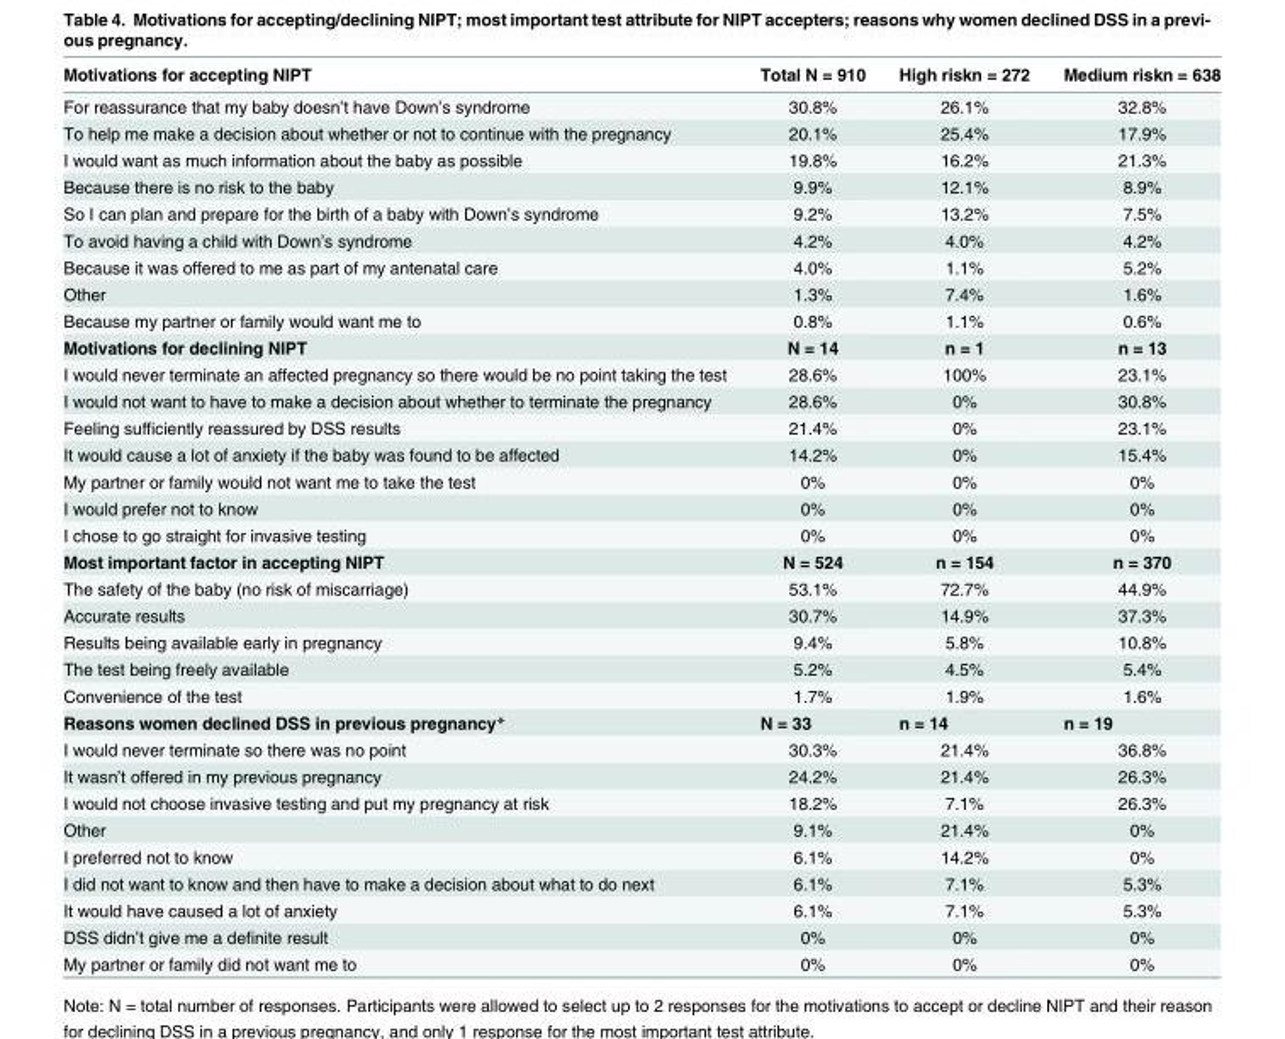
<table><thead><tr><td>Motivations for accepting NIPT</td><td>Total N = 910</td><td>High riskn = 272</td><td>Medium riskn = 638</td></tr></thead><tbody><tr><td>For reassurance that my baby doesn’t have Down’s syndrome</td><td>30.8%</td><td>26.1%</td><td>32.8%</td></tr><tr><td>To help me make a decision about whether or not to continue with the pregnancy</td><td>20.1%</td><td>25.4%</td><td>17.9%</td></tr><tr><td>I would want as much information about the baby as possible</td><td>19.8%</td><td>16.2%</td><td>21.3%</td></tr><tr><td>Because there is no risk to the baby</td><td>9.9%</td><td>12.1%</td><td>8.9%</td></tr><tr><td>So I can plan and prepare for the birth of a baby with Down’s syndrome</td><td>9.2%</td><td>13.2%</td><td>7.5%</td></tr><tr><td>To avoid having a child with Down’s syndrome</td><td>4.2%</td><td>4.0%</td><td>4.2%</td></tr><tr><td>Because it was offered to me as part of my antenatal care</td><td>4.0%</td><td>1.1%</td><td>5.2%</td></tr><tr><td>Other</td><td>1.3%</td><td>7.4%</td><td>1.6%</td></tr><tr><td>Because my partner or family would want me to</td><td>0.8%</td><td>1.1%</td><td>0.6%</td></tr><tr><td>Motivations for declining NIPT</td><td>N = 14</td><td>n = 1</td><td>n = 13</td></tr><tr><td>I would never terminate an affected pregnancy so there would be no point taking the test</td><td>28.6%</td><td>100%</td><td>23.1%</td></tr><tr><td>I would not want to have to make a decision about whether to terminate the pregnancy</td><td>28.6%</td><td>0%</td><td>30.8%</td></tr><tr><td>Feeling sufficiently reassured by DSS results</td><td>21.4%</td><td>0%</td><td>23.1%</td></tr><tr><td>It would cause a lot of anxiety if the baby was found to be affected</td><td>14.2%</td><td>0%</td><td>15.4%</td></tr><tr><td>My partner or family would not want me to take the test</td><td>0%</td><td>0%</td><td>0%</td></tr><tr><td>I would prefer not to know</td><td>0%</td><td>0%</td><td>0%</td></tr><tr><td>I chose to go straight for invasive testing</td><td>0%</td><td>0%</td><td>0%</td></tr><tr><td>Most important factor in accepting NIPT</td><td>N = 524</td><td>n = 154</td><td>n = 370</td></tr><tr><td>The safety of the baby (no risk of miscarriage)</td><td>53.1%</td><td>72.7%</td><td>44.9%</td></tr><tr><td>Accurate results</td><td>30.7%</td><td>14.9%</td><td>37.3%</td></tr><tr><td>Results being available early in pregnancy</td><td>9.4%</td><td>5.8%</td><td>10.8%</td></tr><tr><td>The test being freely available</td><td>5.2%</td><td>4.5%</td><td>5.4%</td></tr><tr><td>Convenience of the test</td><td>1.7%</td><td>1.9%</td><td>1.6%</td></tr><tr><td>Reasons women declined DSS in previous pregnancy*</td><td>N = 33</td><td>n = 14</td><td>n = 19</td></tr><tr><td>I would never terminate so there was no point</td><td>30.3%</td><td>21.4%</td><td>36.8%</td></tr><tr><td>It wasn’t offered in my previous pregnancy</td><td>24.2%</td><td>21.4%</td><td>26.3%</td></tr><tr><td>I would not choose invasive testing and put my pregnancy at risk</td><td>18.2%</td><td>7.1%</td><td>26.3%</td></tr><tr><td>Other</td><td>9.1%</td><td>21.4%</td><td>0%</td></tr><tr><td>I preferred not to know</td><td>6.1%</td><td>14.2%</td><td>0%</td></tr><tr><td>I did not want to know and then have to make a decision about what to do next</td><td>6.1%</td><td>7.1%</td><td>5.3%</td></tr><tr><td>It would have caused a lot of anxiety</td><td>6.1%</td><td>7.1%</td><td>5.3%</td></tr><tr><td>DSS didn’t give me a definite result</td><td>0%</td><td>0%</td><td>0%</td></tr><tr><td>My partner or family did not want me to</td><td>0%</td><td>0%</td><td>0%</td></tr></tbody></table>